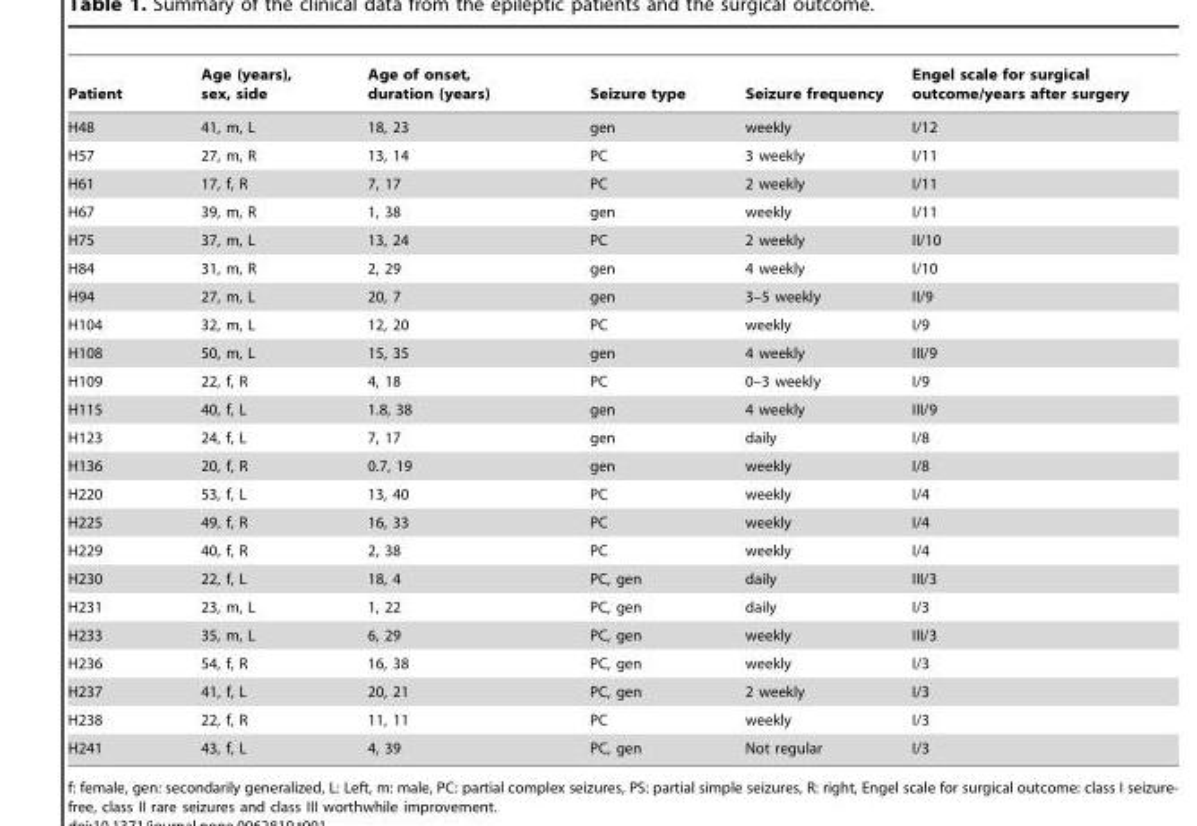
<table><thead><tr><td>Patient</td><td>Age (years), sex, side</td><td>Age of onset, duration (years)</td><td>Seizure type</td><td>Seizure frequency</td><td>Engel scale for surgical outcome/years after surgery</td></tr></thead><tbody><tr><td>H48</td><td>41, m, L</td><td>18, 23</td><td>gen</td><td>weekly</td><td>I/12</td></tr><tr><td>H57</td><td>27, m, R</td><td>13, 14</td><td>PC</td><td>3 weekly</td><td>I/11</td></tr><tr><td>H61</td><td>17, f, R</td><td>7, 17</td><td>PC</td><td>2 weekly</td><td>I/11</td></tr><tr><td>H67</td><td>39, m, R</td><td>1, 38</td><td>gen</td><td>weekly</td><td>I/11</td></tr><tr><td>H75</td><td>37, m, L</td><td>13, 24</td><td>PC</td><td>2 weekly</td><td>II/10</td></tr><tr><td>H84</td><td>31, m, R</td><td>2, 29</td><td>gen</td><td>4 weekly</td><td>I/10</td></tr><tr><td>H94</td><td>27, m, L</td><td>20, 7</td><td>gen</td><td>3–5 weekly</td><td>II/9</td></tr><tr><td>H104</td><td>32, m, L</td><td>12, 20</td><td>PC</td><td>weekly</td><td>I/9</td></tr><tr><td>H108</td><td>50, m, L</td><td>15, 35</td><td>gen</td><td>4 weekly</td><td>III/9</td></tr><tr><td>H109</td><td>22, f, R</td><td>4, 18</td><td>PC</td><td>0–3 weekly</td><td>I/9</td></tr><tr><td>H115</td><td>40, f, L</td><td>1.8, 38</td><td>gen</td><td>4 weekly</td><td>III/9</td></tr><tr><td>H123</td><td>24, f, L</td><td>7, 17</td><td>gen</td><td>daily</td><td>I/8</td></tr><tr><td>H136</td><td>20, f, R</td><td>0.7, 19</td><td>gen</td><td>weekly</td><td>I/8</td></tr><tr><td>H220</td><td>53, f, L</td><td>13, 40</td><td>PC</td><td>weekly</td><td>I/4</td></tr><tr><td>H225</td><td>49, f, R</td><td>16, 33</td><td>PC</td><td>weekly</td><td>I/4</td></tr><tr><td>H229</td><td>40, f, R</td><td>2, 38</td><td>PC</td><td>weekly</td><td>I/4</td></tr><tr><td>H230</td><td>22, f, L</td><td>18, 4</td><td>PC, gen</td><td>daily</td><td>III/3</td></tr><tr><td>H231</td><td>23, m, L</td><td>1, 22</td><td>PC, gen</td><td>daily</td><td>I/3</td></tr><tr><td>H233</td><td>35, m, L</td><td>6, 29</td><td>PC, gen</td><td>weekly</td><td>III/3</td></tr><tr><td>H236</td><td>54, f, R</td><td>16, 38</td><td>PC, gen</td><td>weekly</td><td>I/3</td></tr><tr><td>H237</td><td>41, f, L</td><td>20, 21</td><td>PC, gen</td><td>2 weekly</td><td>I/3</td></tr><tr><td>H238</td><td>22, f, R</td><td>11, 11</td><td>PC</td><td>weekly</td><td>I/3</td></tr><tr><td>H241</td><td>43, f, L</td><td>4, 39</td><td>PC, gen</td><td>Not regular</td><td>I/3</td></tr></tbody></table>